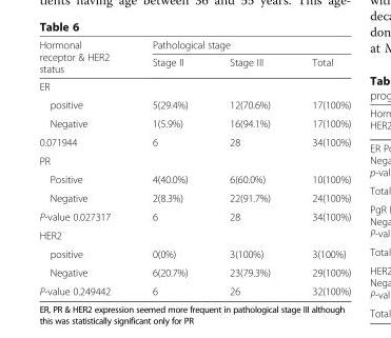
<table><thead><tr><td rowspan="2">Hormonal receptor &amp; HER2 status</td><td colspan="3">Pathological stage</td></tr><tr><td>Stage II</td><td>Stage III</td><td>Total</td></tr></thead><tbody><tr><td colspan="4">ER</td></tr><tr><td>positive</td><td>5(29.4%)</td><td>12(70.6%)</td><td>17(100%)</td></tr><tr><td>Negative</td><td>1(5.9%)</td><td>16(94.1%)</td><td>17(100%)</td></tr><tr><td>0.071944</td><td>6</td><td>28</td><td>34(100%)</td></tr><tr><td colspan="4">PR</td></tr><tr><td>Positive</td><td>4(40.0%)</td><td>6(60.0%)</td><td>10(100%)</td></tr><tr><td>Negative</td><td>2(8.3%)</td><td>22(91.7%)</td><td>24(100%)</td></tr><tr><td>P-value 0.027317</td><td>6</td><td>28</td><td>34(100%)</td></tr><tr><td colspan="4">HER2</td></tr><tr><td>positive</td><td>0(0%)</td><td>3(100%)</td><td>3(100%)</td></tr><tr><td>Negative</td><td>6(20.7%)</td><td>23(79.3%)</td><td>29(100%)</td></tr><tr><td>P-value 0.249442</td><td>6</td><td>26</td><td>32(100%)</td></tr></tbody></table>